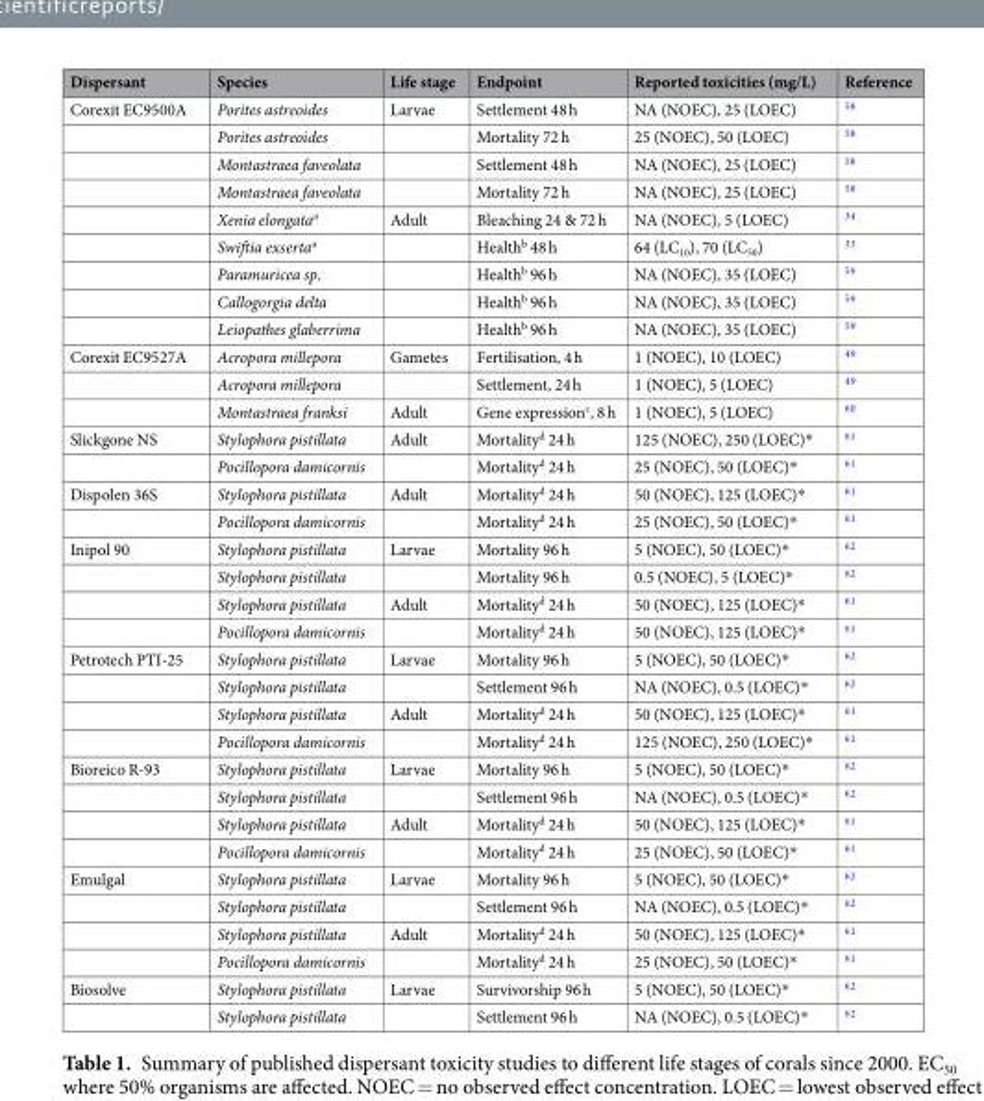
<table><thead><tr><td>Dispersant</td><td>Species</td><td>Life stage</td><td>Endpoint</td><td>Reported toxicities (mg/L)</td><td>Reference</td></tr></thead><tbody><tr><td rowspan="9">Corexit EC9500A</td><td>Porites astreoides</td><td>Larvae</td><td>Settlement 48 h</td><td>NA (NOEC), 25 (LOEC)</td><td><sup>58</sup></td></tr><tr><td>Porites astreoides</td><td></td><td>Mortality 72 h</td><td>25 (NOEC), 50 (LOEC)</td><td><sup>58</sup></td></tr><tr><td>Montastraea faveolata</td><td></td><td>Settlement 48 h</td><td>NA (NOEC), 25 (LOEC)</td><td><sup>58</sup></td></tr><tr><td>Montastraea faveolata</td><td></td><td>Mortality 72 h</td><td>NA (NOEC), 25 (LOEC)</td><td><sup>58</sup></td></tr><tr><td>Xenia elongata<sup>a</sup></td><td>Adult</td><td>Bleaching 24 &amp; 72 h</td><td>NA (NOEC), 5 (LOEC)</td><td><sup>34</sup></td></tr><tr><td>Swiftia exserta<sup>a</sup></td><td></td><td>Health<sup>b</sup> 48 h</td><td>64 (LC<sub>10</sub>), 70 (LC<sub>50</sub>)</td><td><sup>33</sup></td></tr><tr><td>Paramuricea sp.</td><td></td><td>Health<sup>b</sup> 96 h</td><td>NA (NOEC), 35 (LOEC)</td><td><sup>59</sup></td></tr><tr><td>Callogorgia delta</td><td></td><td>Health<sup>b</sup> 96 h</td><td>NA (NOEC), 35 (LOEC)</td><td><sup>59</sup></td></tr><tr><td>Leiopathes glaberrima</td><td></td><td>Health<sup>b</sup> 96 h</td><td>NA (NOEC), 35 (LOEC)</td><td><sup>59</sup></td></tr><tr><td rowspan="3">Corexit EC9527A</td><td>Acropora millepora</td><td>Gametes</td><td>Fertilisation, 4 h</td><td>1 (NOEC), 10 (LOEC)</td><td><sup>49</sup></td></tr><tr><td>Acropora millepora</td><td></td><td>Settlement, 24 h</td><td>1 (NOEC), 5 (LOEC)</td><td><sup>49</sup></td></tr><tr><td>Montastraea franksi</td><td>Adult</td><td>Gene expression<sup>c</sup>, 8 h</td><td>1 (NOEC), 5 (LOEC)</td><td><sup>60</sup></td></tr><tr><td rowspan="2">Slickgone NS</td><td>Stylophora pistillata</td><td>Adult</td><td>Mortality<sup>d</sup> 24 h</td><td>125 (NOEC), 250 (LOEC)*</td><td><sup>61</sup></td></tr><tr><td>Pocillopora damicornis</td><td></td><td>Mortality<sup>d</sup> 24 h</td><td>25 (NOEC), 50 (LOEC)*</td><td><sup>61</sup></td></tr><tr><td rowspan="2">Dispolen 36S</td><td>Stylophora pistillata</td><td>Adult</td><td>Mortality<sup>d</sup> 24 h</td><td>50 (NOEC), 125 (LOEC)*</td><td><sup>61</sup></td></tr><tr><td>Pocillopora damicornis</td><td></td><td>Mortality<sup>d</sup> 24 h</td><td>25 (NOEC), 50 (LOEC)*</td><td><sup>61</sup></td></tr><tr><td rowspan="4">Inipol 90</td><td>Stylophora pistillata</td><td>Larvae</td><td>Mortality 96 h</td><td>5 (NOEC), 50 (LOEC)*</td><td><sup>62</sup></td></tr><tr><td>Stylophora pistillata</td><td></td><td>Mortality 96 h</td><td>0.5 (NOEC), 5 (LOEC)*</td><td><sup>62</sup></td></tr><tr><td>Stylophora pistillata</td><td>Adult</td><td>Mortality<sup>d</sup> 24 h</td><td>50 (NOEC), 125 (LOEC)*</td><td><sup>61</sup></td></tr><tr><td>Pocillopora damicornis</td><td></td><td>Mortality<sup>d</sup> 24 h</td><td>50 (NOEC), 125 (LOEC)*</td><td><sup>61</sup></td></tr><tr><td rowspan="4">Petrotech PTI-25</td><td>Stylophora pistillata</td><td>Larvae</td><td>Mortality 96 h</td><td>5 (NOEC), 50 (LOEC)*</td><td><sup>62</sup></td></tr><tr><td>Stylophora pistillata</td><td></td><td>Settlement 96 h</td><td>NA (NOEC), 0.5 (LOEC)*</td><td><sup>62</sup></td></tr><tr><td>Stylophora pistillata</td><td>Adult</td><td>Mortality<sup>d</sup> 24 h</td><td>50 (NOEC), 125 (LOEC)*</td><td><sup>61</sup></td></tr><tr><td>Pocillopora damicornis</td><td></td><td>Mortality<sup>d</sup> 24 h</td><td>125 (NOEC), 250 (LOEC)*</td><td><sup>61</sup></td></tr><tr><td rowspan="4">Bioreico R-93</td><td>Stylophora pistillata</td><td>Larvae</td><td>Mortality 96 h</td><td>5 (NOEC), 50 (LOEC)*</td><td><sup>62</sup></td></tr><tr><td>Stylophora pistillata</td><td></td><td>Settlement 96 h</td><td>NA (NOEC), 0.5 (LOEC)*</td><td><sup>62</sup></td></tr><tr><td>Stylophora pistillata</td><td>Adult</td><td>Mortality<sup>d</sup> 24 h</td><td>50 (NOEC), 125 (LOEC)*</td><td><sup>61</sup></td></tr><tr><td>Pocillopora damicornis</td><td></td><td>Mortality<sup>d</sup> 24 h</td><td>25 (NOEC), 50 (LOEC)*</td><td><sup>61</sup></td></tr><tr><td rowspan="4">Emulgal</td><td>Stylophora pistillata</td><td>Larvae</td><td>Mortality 96 h</td><td>5 (NOEC), 50 (LOEC)*</td><td><sup>62</sup></td></tr><tr><td>Stylophora pistillata</td><td></td><td>Settlement 96 h</td><td>NA (NOEC), 0.5 (LOEC)*</td><td><sup>62</sup></td></tr><tr><td>Stylophora pistillata</td><td>Adult</td><td>Mortality<sup>d</sup> 24 h</td><td>50 (NOEC), 125 (LOEC)*</td><td><sup>61</sup></td></tr><tr><td>Pocillopora damicornis</td><td></td><td>Mortality<sup>d</sup> 24 h</td><td>25 (NOEC), 50 (LOEC)*</td><td><sup>61</sup></td></tr><tr><td rowspan="2">Biosolve</td><td>Stylophora pistillata</td><td>Larvae</td><td>Survivorship 96 h</td><td>5 (NOEC), 50 (LOEC)*</td><td><sup>62</sup></td></tr><tr><td>Stylophora pistillata</td><td></td><td>Settlement 96 h</td><td>NA (NOEC), 0.5 (LOEC)*</td><td><sup>62</sup></td></tr></tbody></table>